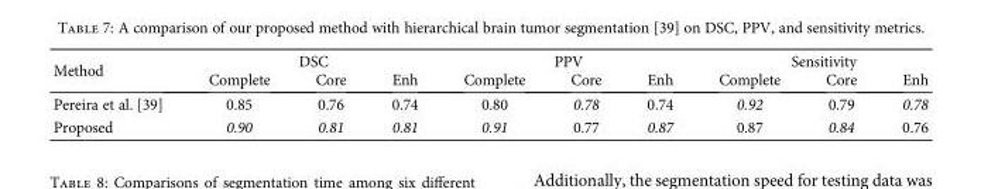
<table><thead><tr><td rowspan="2">Method</td><td colspan="3">DSC</td><td colspan="3">PPV</td><td colspan="3">Sensitivity</td></tr><tr><td>Complete</td><td>Core</td><td>Enh</td><td>Complete</td><td>Core</td><td>Enh</td><td>Complete</td><td>Core</td><td>Enh</td></tr></thead><tbody><tr><td>Pereira et al. [39]</td><td>0.85</td><td>0.76</td><td>0.74</td><td>0.80</td><td>0.78</td><td>0.74</td><td>0.92</td><td>0.79</td><td>0.78</td></tr><tr><td>Proposed</td><td>0.90</td><td>0.81</td><td>0.81</td><td>0.91</td><td>0.77</td><td>0.87</td><td>0.87</td><td>0.84</td><td>0.76</td></tr></tbody></table>